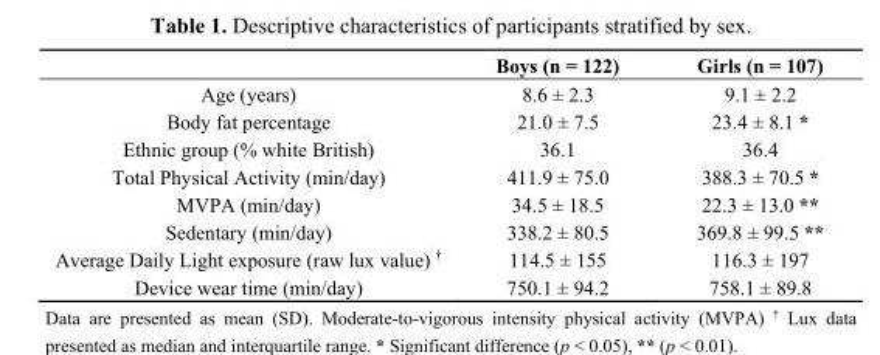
<table><thead><tr><td></td><td>Boys (n = 122)</td><td>Girls (n = 107)</td></tr></thead><tbody><tr><td>Age (years)</td><td>8.6 ± 2.3</td><td>9.1 ± 2.2</td></tr><tr><td>Body fat percentage</td><td>21.0 ± 7.5</td><td>23.4 ± 8.1 *</td></tr><tr><td>Ethnic group (% white British)</td><td>36.1</td><td>36.4</td></tr><tr><td>Total Physical Activity (min/day)</td><td>411.9 ± 75.0</td><td>388.3 ± 70.5 *</td></tr><tr><td>MVPA (min/day)</td><td>34.5 ± 18.5</td><td>22.3 ± 13.0 **</td></tr><tr><td>Sedentary (min/day)</td><td>338.2 ± 80.5</td><td>369.8 ± 99.5 **</td></tr><tr><td>Average Daily Light exposure (raw lux value) <sup>†</sup></td><td>114.5 ± 155</td><td>116.3 ± 197</td></tr><tr><td>Device wear time (min/day)</td><td>750.1 ± 94.2</td><td>758.1 ± 89.8</td></tr></tbody></table>